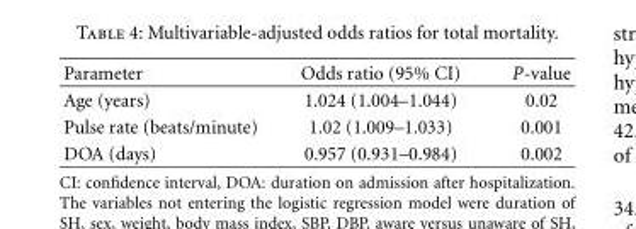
<table><thead><tr><td>Parameter</td><td>Odds ratio (95% CI)</td><td>P-value</td></tr></thead><tbody><tr><td>Age (years)</td><td>1.024 (1.004–1.044)</td><td>0.02</td></tr><tr><td>Pulse rate (beats/minute)</td><td>1.02 (1.009–1.033)</td><td>0.001</td></tr><tr><td>DOA (days)</td><td>0.957 (0.931–0.984)</td><td>0.002</td></tr></tbody></table>